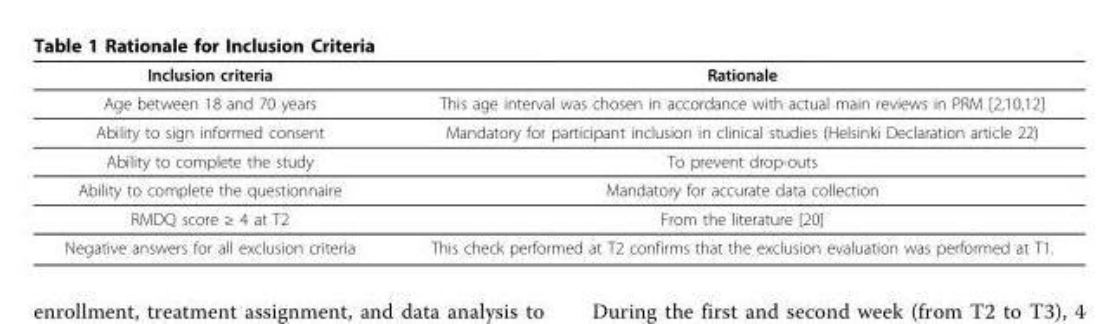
<table><thead><tr><td>Inclusion criteria</td><td>Rationale</td></tr></thead><tbody><tr><td>Age between 18 and 70 years</td><td>This age interval was chosen in accordance with actual main reviews in PRM [2,10,12]</td></tr><tr><td>Ability to sign informed consent</td><td>Mandatory for participant inclusion in clinical studies (Helsinki Declaration article 22)</td></tr><tr><td>Ability to complete the study</td><td>To prevent drop-outs</td></tr><tr><td>Ability to complete the questionnaire</td><td>Mandatory for accurate data collection</td></tr><tr><td>RMDQ score ≥ 4 at T2</td><td>From the literature [20]</td></tr><tr><td>Negative answers for all exclusion criteria</td><td>This check performed at T2 confirms that the exclusion evaluation was performed at T1.</td></tr></tbody></table>